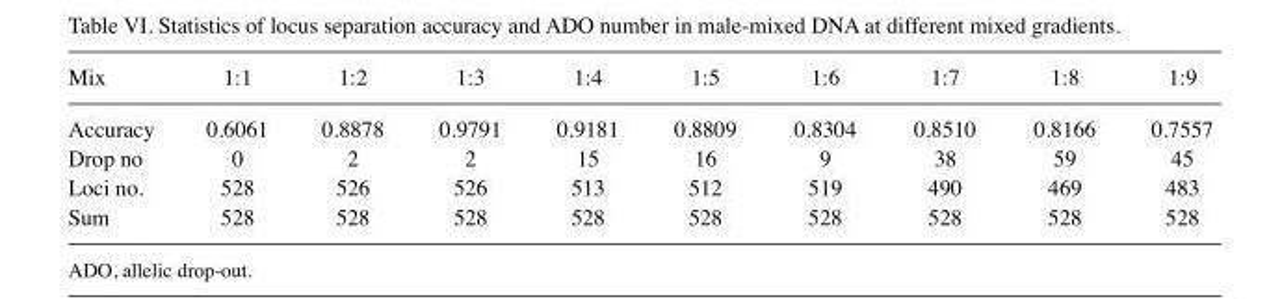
<table><thead><tr><td>Mix</td><td>1:1</td><td>1:2</td><td>1:3</td><td>1:4</td><td>1:5</td><td>1:6</td><td>1:7</td><td>1:8</td><td>1:9</td></tr></thead><tbody><tr><td>Accuracy</td><td>0.6061</td><td>0.8878</td><td>0.9791</td><td>0.9181</td><td>0.8809</td><td>0.8304</td><td>0.8510</td><td>0.8166</td><td>0.7557</td></tr><tr><td>Drop no</td><td>0</td><td>2</td><td>2</td><td>15</td><td>16</td><td>9</td><td>38</td><td>59</td><td>45</td></tr><tr><td>Loci no.</td><td>528</td><td>526</td><td>526</td><td>513</td><td>512</td><td>519</td><td>490</td><td>469</td><td>483</td></tr><tr><td>Sum</td><td>528</td><td>528</td><td>528</td><td>528</td><td>528</td><td>528</td><td>528</td><td>528</td><td>528</td></tr></tbody></table>